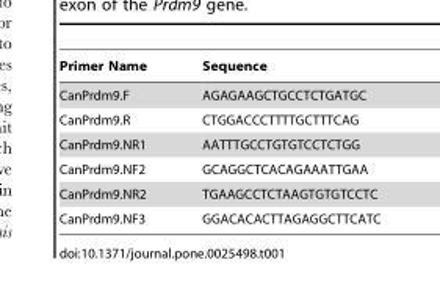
<table><thead><tr><td>Primer Name</td><td>Sequence</td></tr></thead><tbody><tr><td>CanPrdm9.F</td><td>AGAGAAGCTGCCTCTGATGC</td></tr><tr><td>CanPrdm9.R</td><td>CTGGACCCTTTTGCTTTCAG</td></tr><tr><td>CanPrdm9.NR1</td><td>AATTTGCCTGTGTCCTCTGG</td></tr><tr><td>CanPrdm9.NF2</td><td>GCAGGCTCACAGAAATTGAA</td></tr><tr><td>CanPrdm9.NR2</td><td>TGAAGCCTCTAAGTGTGTCCTC</td></tr><tr><td>CanPrdm9.NF3</td><td>GGACACACTTAGAGGCTTCATC</td></tr></tbody></table>